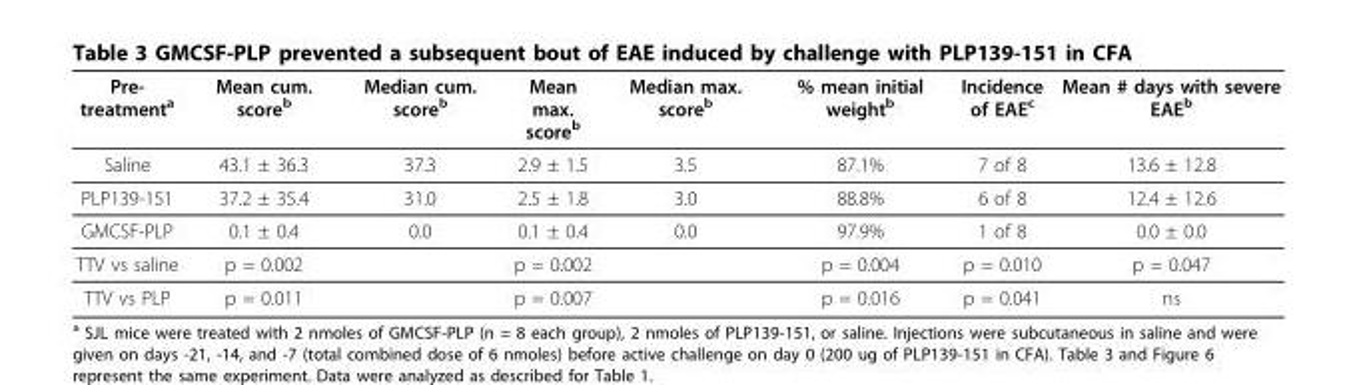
<table><thead><tr><td>Pre- treatment<sup>a</sup></td><td>Mean cum. score<sup>b</sup></td><td>Median cum. score<sup>b</sup></td><td>Mean max. score<sup>b</sup></td><td>Median max. score<sup>b</sup></td><td>% mean initial weight<sup>b</sup></td><td>Incidence of EAE<sup>c</sup></td><td>Mean # days with severe EAE<sup>b</sup></td></tr></thead><tbody><tr><td>Saline</td><td>43.1 ± 36.3</td><td>37.3</td><td>2.9 ± 1.5</td><td>3.5</td><td>87.1%</td><td>7 of 8</td><td>13.6 ± 12.8</td></tr><tr><td>PLP139-151</td><td>37.2 ± 35.4</td><td>31.0</td><td>2.5 ± 1.8</td><td>3.0</td><td>88.8%</td><td>6 of 8</td><td>12.4 ± 12.6</td></tr><tr><td>GMCSF-PLP</td><td>0.1 ± 0.4</td><td>0.0</td><td>0.1 ± 0.4</td><td>0.0</td><td>97.9%</td><td>1 of 8</td><td>0.0 ± 0.0</td></tr><tr><td>TTV vs saline</td><td>p = 0.002</td><td></td><td>p = 0.002</td><td></td><td>p = 0.004</td><td>p = 0.010</td><td>p = 0.047</td></tr><tr><td>TTV vs PLP</td><td>p = 0.011</td><td></td><td>p = 0.007</td><td></td><td>p = 0.016</td><td>p = 0.041</td><td>ns</td></tr></tbody></table>